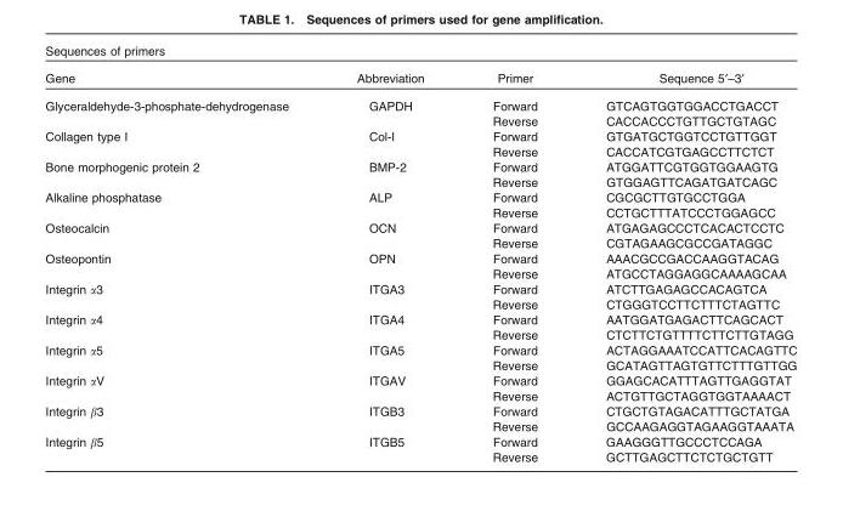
<table><thead><tr><td colspan="4">Sequences of primers</td></tr><tr><td>Gene</td><td>Abbreviation</td><td>Primer</td><td>Sequence 5¢–3¢</td></tr></thead><tbody><tr><td rowspan="2">Glyceraldehyde-3-phosphate-dehydrogenase</td><td rowspan="2">GAPDH</td><td>Forward</td><td>GTCAGTGGTGGACCTGACCT</td></tr><tr><td>Reverse</td><td>CACCACCCTGTTGCTGTAGC</td></tr><tr><td rowspan="2">Collagen type I</td><td rowspan="2">Col-I</td><td>Forward</td><td>GTGATGCTGGTCCTGTTGGT</td></tr><tr><td>Reverse</td><td>CACCATCGTGAGCCTTCTCT</td></tr><tr><td rowspan="2">Bone morphogenic protein 2</td><td rowspan="2">BMP-2</td><td>Forward</td><td>ATGGATTCGTGGTGGAAGTG</td></tr><tr><td>Reverse</td><td>GTGGAGTTCAGATGATCAGC</td></tr><tr><td rowspan="2">Alkaline phosphatase</td><td rowspan="2">ALP</td><td>Forward</td><td>CGCGCTTGTGCCTGGA</td></tr><tr><td>Reverse</td><td>CCTGCTTTATCCCTGGAGCC</td></tr><tr><td rowspan="2">Osteocalcin</td><td rowspan="2">OCN</td><td>Forward</td><td>ATGAGAGCCCTCACACTCCTC</td></tr><tr><td>Reverse</td><td>CGTAGAAGCGCCGATAGGC</td></tr><tr><td rowspan="2">Osteopontin</td><td rowspan="2">OPN</td><td>Forward</td><td>AAACGCCGACCAAGGTACAG</td></tr><tr><td>Reverse</td><td>ATGCCTAGGAGGCAAAAGCAA</td></tr><tr><td rowspan="2">Integrin α3</td><td rowspan="2">ITGA3</td><td>Forward</td><td>ATCTTGAGAGCCACAGTCA</td></tr><tr><td>Reverse</td><td>CTGGGTCCTTCTTTCTAGTTC</td></tr><tr><td rowspan="2">Integrin α4</td><td rowspan="2">ITGA4</td><td>Forward</td><td>AATGGATGAGACTTCAGCACT</td></tr><tr><td>Reverse</td><td>CTCTTCTGTTTTCTTCTTGTAGG</td></tr><tr><td rowspan="2">Integrin α5</td><td rowspan="2">ITGA5</td><td>Forward</td><td>ACTAGGAAATCCATTCACAGTTC</td></tr><tr><td>Reverse</td><td>GCATAGTTAGTGTTCTTTGTTGG</td></tr><tr><td rowspan="2">Integrin αV</td><td rowspan="2">ITGAV</td><td>Forward</td><td>GGAGCACATTTAGTTGAGGTAT</td></tr><tr><td>Reverse</td><td>ACTGTTGCTAGGTGGTAAAACT</td></tr><tr><td rowspan="2">Integrin β3</td><td rowspan="2">ITGB3</td><td>Forward</td><td>CTGCTGTAGACATTTGCTATGA</td></tr><tr><td>Reverse</td><td>GCCAAGAGGTAGAAGGTAAATA</td></tr><tr><td rowspan="2">Integrin β5</td><td rowspan="2">ITGB5</td><td>Forward</td><td>GAAGGGTTGCCCTCCAGA</td></tr><tr><td>Reverse</td><td>GCTTGAGCTTCTCTGCTGTT</td></tr></tbody></table>